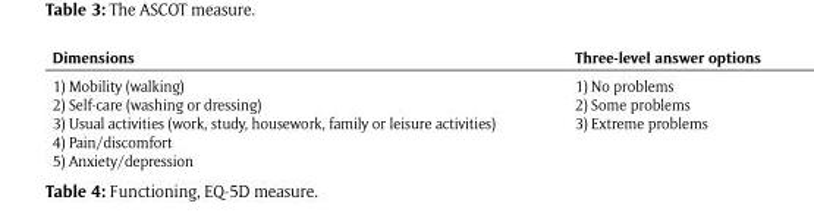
<table><thead><tr><td>Dimensions</td><td>Three-level answer options</td></tr></thead><tbody><tr><td>1) Mobility (walking) 2) Self-care (washing or dressing) 3) Usual activities (work, study, housework, family or leisure activities) 4) Pain/discomfort 5) Anxiety/depression</td><td>1) No problems 2) Some problems 3) Extreme problems</td></tr></tbody></table>